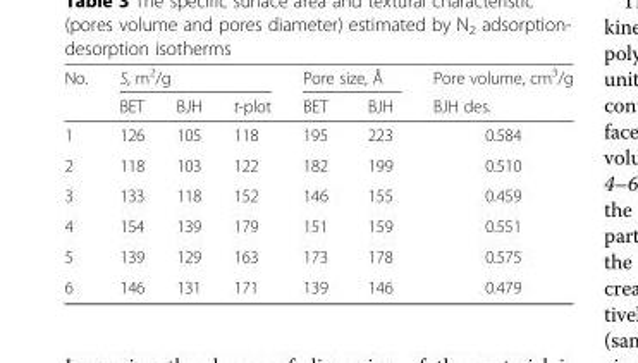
<table><thead><tr><td rowspan="2">No.</td><td colspan="3">S, m<sup>2</sup>/g</td><td colspan="2">Pore size, Å</td><td rowspan="2">Pore volume, cm<sup>3</sup>/g BJH des.</td></tr><tr><td>BET</td><td>BJH</td><td>t-plot</td><td>BET</td><td>BJH</td></tr></thead><tbody><tr><td>1</td><td>126</td><td>105</td><td>118</td><td>195</td><td>223</td><td>0.584</td></tr><tr><td>2</td><td>118</td><td>103</td><td>122</td><td>182</td><td>199</td><td>0.510</td></tr><tr><td>3</td><td>133</td><td>118</td><td>152</td><td>146</td><td>155</td><td>0.459</td></tr><tr><td>4</td><td>154</td><td>139</td><td>179</td><td>151</td><td>159</td><td>0.551</td></tr><tr><td>5</td><td>139</td><td>129</td><td>163</td><td>173</td><td>178</td><td>0.575</td></tr><tr><td>6</td><td>146</td><td>131</td><td>171</td><td>139</td><td>146</td><td>0.479</td></tr></tbody></table>